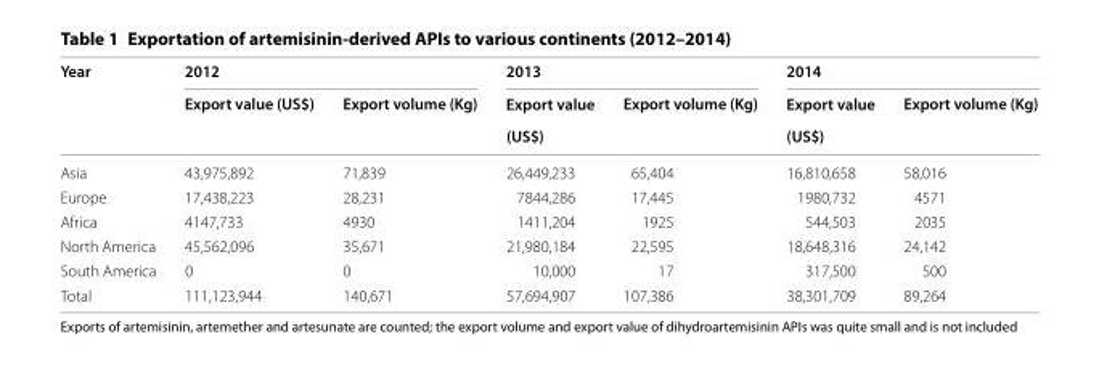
<table><thead><tr><td rowspan="3">Year</td><td colspan="2">2012</td><td colspan="2">2013</td><td colspan="2">2014</td></tr><tr><td rowspan="2">Export value (US$)</td><td rowspan="2">Export volume (Kg)</td><td rowspan="2">Export value (US$)</td><td rowspan="2">Export volume (Kg)</td><td rowspan="2">Export value (US$)</td><td rowspan="2">Export volume (Kg)</td></tr><tr></tr></thead><tbody><tr><td>Asia</td><td>43,975,892</td><td>71,839</td><td>26,449,233</td><td>65,404</td><td>16,810,658</td><td>58,016</td></tr><tr><td>Europe</td><td>17,438,223</td><td>28,231</td><td>7844,286</td><td>17,445</td><td>1980,732</td><td>4571</td></tr><tr><td>Africa</td><td>4147,733</td><td>4930</td><td>1411,204</td><td>1925</td><td>544,503</td><td>2035</td></tr><tr><td>North America</td><td>45,562,096</td><td>35,671</td><td>21,980,184</td><td>22,595</td><td>18,648,316</td><td>24,142</td></tr><tr><td>South America</td><td>0</td><td>0</td><td>10,000</td><td>17</td><td>317,500</td><td>500</td></tr><tr><td>Total</td><td>111,123,944</td><td>140,671</td><td>57,694,907</td><td>107,386</td><td>38,301,709</td><td>89,264</td></tr></tbody></table>